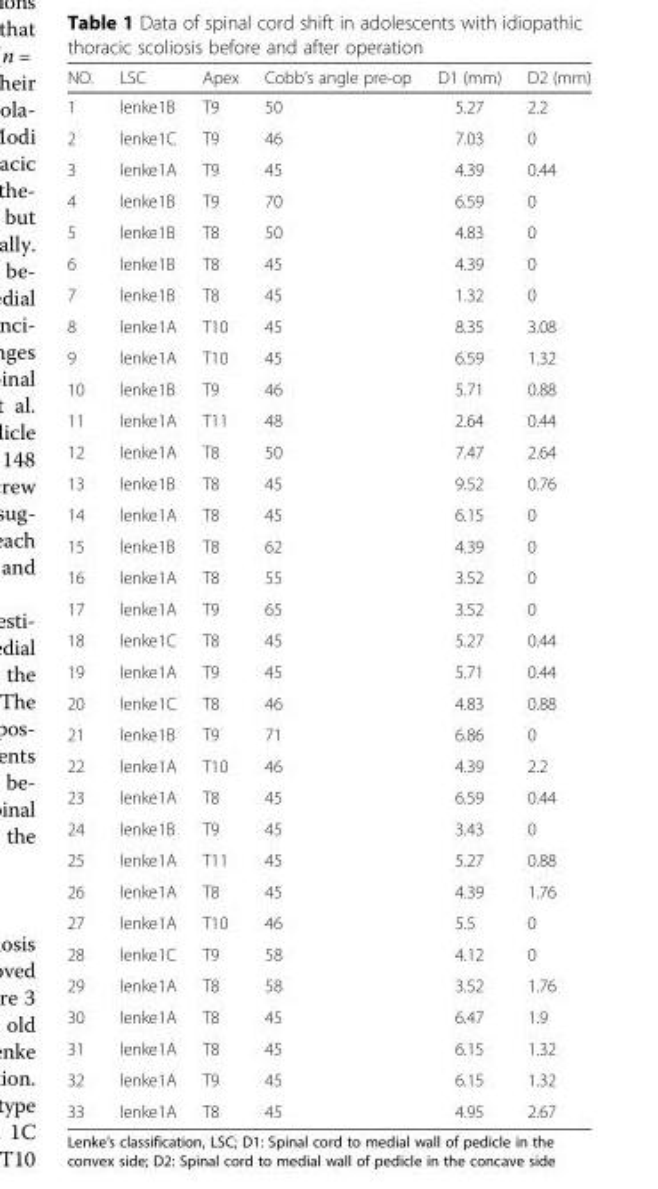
<table><thead><tr><td>NO.</td><td>LSC</td><td>Apex</td><td>Cobb’s angle pre-op</td><td>D1 (mm)</td><td>D2 (mm)</td></tr></thead><tbody><tr><td>1</td><td>lenke1B</td><td>T9</td><td>50</td><td>5.27</td><td>2.2</td></tr><tr><td>2</td><td>lenke1C</td><td>T9</td><td>46</td><td>7.03</td><td>0</td></tr><tr><td>3</td><td>lenke1A</td><td>T9</td><td>45</td><td>4.39</td><td>0.44</td></tr><tr><td>4</td><td>lenke1B</td><td>T9</td><td>70</td><td>6.59</td><td>0</td></tr><tr><td>5</td><td>lenke1B</td><td>T8</td><td>50</td><td>4.83</td><td>0</td></tr><tr><td>6</td><td>lenke1B</td><td>T8</td><td>45</td><td>4.39</td><td>0</td></tr><tr><td>7</td><td>lenke1B</td><td>T8</td><td>45</td><td>1.32</td><td>0</td></tr><tr><td>8</td><td>lenke1A</td><td>T10</td><td>45</td><td>8.35</td><td>3.08</td></tr><tr><td>9</td><td>lenke1A</td><td>T10</td><td>45</td><td>6.59</td><td>1.32</td></tr><tr><td>10</td><td>lenke1B</td><td>T9</td><td>46</td><td>5.71</td><td>0.88</td></tr><tr><td>11</td><td>lenke1A</td><td>T11</td><td>48</td><td>2.64</td><td>0.44</td></tr><tr><td>12</td><td>lenke1A</td><td>T8</td><td>50</td><td>7.47</td><td>2.64</td></tr><tr><td>13</td><td>lenke1B</td><td>T8</td><td>45</td><td>9.52</td><td>0.76</td></tr><tr><td>14</td><td>lenke1A</td><td>T8</td><td>45</td><td>6.15</td><td>0</td></tr><tr><td>15</td><td>lenke1B</td><td>T8</td><td>62</td><td>4.39</td><td>0</td></tr><tr><td>16</td><td>lenke1A</td><td>T8</td><td>55</td><td>3.52</td><td>0</td></tr><tr><td>17</td><td>lenke1A</td><td>T9</td><td>65</td><td>3.52</td><td>0</td></tr><tr><td>18</td><td>lenke1C</td><td>T8</td><td>45</td><td>5.27</td><td>0.44</td></tr><tr><td>19</td><td>lenke1A</td><td>T9</td><td>45</td><td>5.71</td><td>0.44</td></tr><tr><td>20</td><td>lenke1C</td><td>T8</td><td>46</td><td>4.83</td><td>0.88</td></tr><tr><td>21</td><td>lenke1B</td><td>T9</td><td>71</td><td>6.86</td><td>0</td></tr><tr><td>22</td><td>lenke1A</td><td>T10</td><td>46</td><td>4.39</td><td>2.2</td></tr><tr><td>23</td><td>lenke1A</td><td>T8</td><td>45</td><td>6.59</td><td>0.44</td></tr><tr><td>24</td><td>lenke1B</td><td>T9</td><td>45</td><td>3.43</td><td>0</td></tr><tr><td>25</td><td>lenke1A</td><td>T11</td><td>45</td><td>5.27</td><td>0.88</td></tr><tr><td>26</td><td>lenke1A</td><td>T8</td><td>45</td><td>4.39</td><td>1.76</td></tr><tr><td>27</td><td>lenke1A</td><td>T10</td><td>46</td><td>5.5</td><td>0</td></tr><tr><td>28</td><td>lenke1C</td><td>T9</td><td>58</td><td>4.12</td><td>0</td></tr><tr><td>29</td><td>lenke1A</td><td>T8</td><td>58</td><td>3.52</td><td>1.76</td></tr><tr><td>30</td><td>lenke1A</td><td>T8</td><td>45</td><td>6.47</td><td>1.9</td></tr><tr><td>31</td><td>lenke1A</td><td>T8</td><td>45</td><td>6.15</td><td>1.32</td></tr><tr><td>32</td><td>lenke1A</td><td>T9</td><td>45</td><td>6.15</td><td>1.32</td></tr><tr><td>33</td><td>lenke1A</td><td>T8</td><td>45</td><td>4.95</td><td>2.67</td></tr></tbody></table>